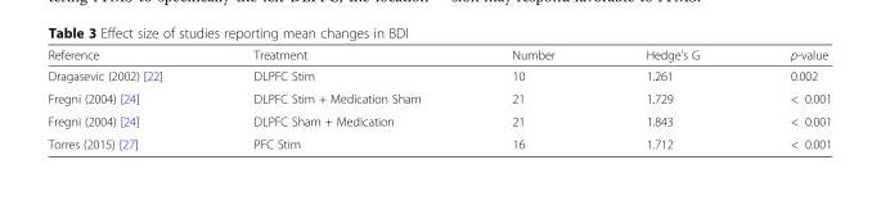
<table><thead><tr><td>Reference</td><td>Treatment</td><td>Number</td><td>Hedge’s G</td><td>p-value</td></tr></thead><tbody><tr><td>Dragasevic (2002) [22]</td><td>DLPFC Stim</td><td>10</td><td>1.261</td><td>0.002</td></tr><tr><td>Fregni (2004) [24]</td><td>DLPFC Stim + Medication Sham</td><td>21</td><td>1.729</td><td>&lt; 0.001</td></tr><tr><td>Fregni (2004) [24]</td><td>DLPFC Sham + Medication</td><td>21</td><td>1.843</td><td>&lt; 0.001</td></tr><tr><td>Torres (2015) [27]</td><td>PFC Stim</td><td>16</td><td>1.712</td><td>&lt; 0.001</td></tr></tbody></table>